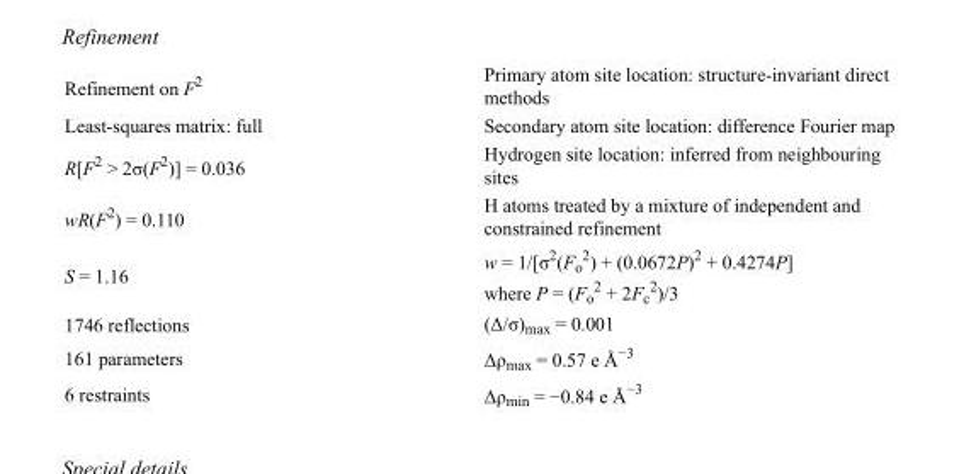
<table><tbody><tr><td>Refinement on F<sup>2</sup></td><td>Primary atom site location: structure-invariant direct methods</td></tr><tr><td>Least-squares matrix: full</td><td>Secondary atom site location: difference Fourier map</td></tr><tr><td>R[F<sup>2</sup> &gt; 2σ(F<sup>2</sup>)] = 0.036</td><td>Hydrogen site location: inferred from neighbouring sites</td></tr><tr><td>wR(F<sup>2</sup>) = 0.110</td><td>H atoms treated by a mixture of independent and constrained refinement</td></tr><tr><td>S = 1.16</td><td>w = 1/[σ<sup>2</sup>(F<sub>o</sub> <sup>2</sup>) + (0.0672P)<sup>2</sup> + 0.4274P] where P = (F<sub>o</sub> <sup>2</sup> + 2F<sub>c</sub> <sup>2</sup>)/3</td></tr><tr><td>1746 reflections</td><td>(Δ/σ)<sub>max</sub> = 0.001</td></tr><tr><td>161 parameters</td><td>Δρ<sub>max</sub> = 0.57 e Å<sup>−3</sup></td></tr><tr><td>6 restraints</td><td>Δρ<sub>min</sub> = −0.84 e Å<sup>−3</sup></td></tr></tbody></table>